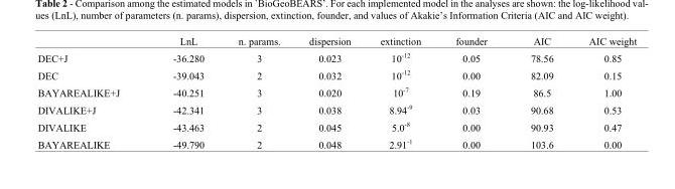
<table><thead><tr><td></td><td>LnL</td><td>n. params.</td><td>dispersion</td><td>extinction</td><td>founder</td><td>AIC</td><td>AIC weight</td></tr></thead><tbody><tr><td>DEC+J</td><td>-36.280</td><td>3</td><td>0.023</td><td>10<sup>-12</sup></td><td>0.05</td><td>78.56</td><td>0.85</td></tr><tr><td>DEC</td><td>-39.043</td><td>2</td><td>0.032</td><td>10<sup>-12</sup></td><td>0.00</td><td>82.09</td><td>0.15</td></tr><tr><td>BAYAREALIKE+J</td><td>-40.251</td><td>3</td><td>0.020</td><td>10<sup>-7</sup></td><td>0.19</td><td>86.5</td><td>1.00</td></tr><tr><td>DIVALIKE+J</td><td>-42.341</td><td>3</td><td>0.038</td><td>8.94<sup>-9</sup></td><td>0.03</td><td>90.68</td><td>0.53</td></tr><tr><td>DIVALIKE</td><td>-43.463</td><td>2</td><td>0.045</td><td>5.0<sup>-8</sup></td><td>0.00</td><td>90.93</td><td>0.47</td></tr><tr><td>BAYAREALIKE</td><td>-49.790</td><td>2</td><td>0.048</td><td>2.91<sup>-1</sup></td><td>0.00</td><td>103.6</td><td>0.00</td></tr></tbody></table>